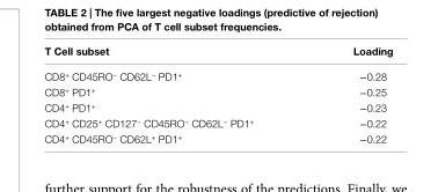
<table><thead><tr><td>T cell subset</td><td>loading</td></tr></thead><tbody><tr><td>CD8<sup>+</sup> CD45RO<sup>−</sup> CD62L<sup>−</sup> PD1<sup>+</sup></td><td>−0.28</td></tr><tr><td>CD8<sup>+</sup> PD1<sup>+</sup></td><td>−0.25</td></tr><tr><td>CD4<sup>+</sup> PD1<sup>+</sup></td><td>−0.23</td></tr><tr><td>CD4<sup>+</sup> CD25<sup>+</sup> CD127<sup>−</sup> CD45RO<sup>−</sup> CD62L<sup>−</sup> PD1<sup>+</sup></td><td>−0.22</td></tr><tr><td>CD4<sup>+</sup> CD45RO<sup>−</sup> CD62L<sup>+</sup> PD1<sup>+</sup></td><td>−0.22</td></tr></tbody></table>